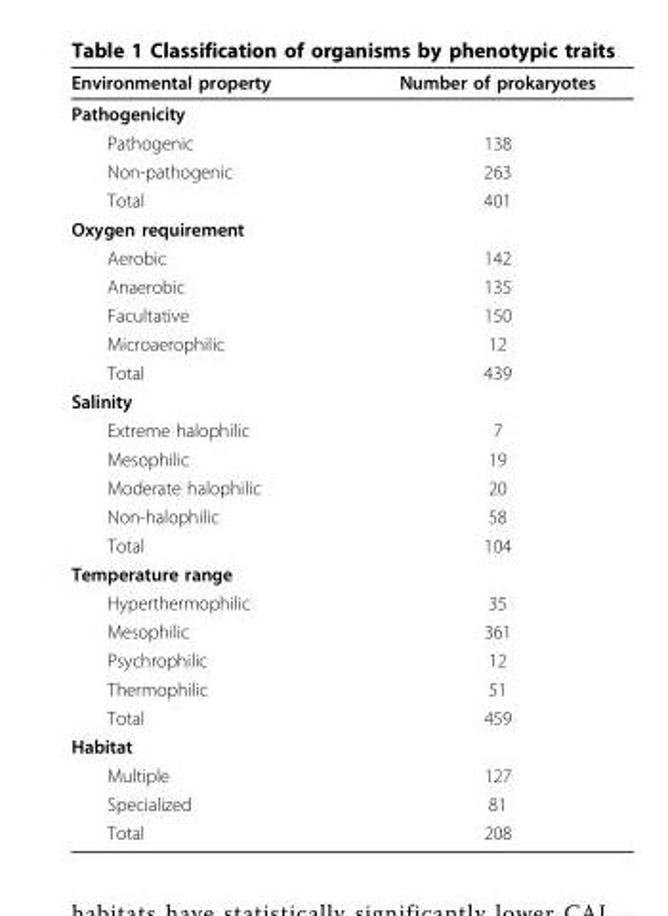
<table><thead><tr><td>Environmental property</td><td>Number of prokaryotes</td></tr></thead><tbody><tr><td colspan="2">Pathogenicity</td></tr><tr><td>Pathogenic</td><td>138</td></tr><tr><td>Non-pathogenic</td><td>263</td></tr><tr><td>Total</td><td>401</td></tr><tr><td colspan="2">Oxygen requirement</td></tr><tr><td>Aerobic</td><td>142</td></tr><tr><td>Anaerobic</td><td>135</td></tr><tr><td>Facultative</td><td>150</td></tr><tr><td>Microaerophilic</td><td>12</td></tr><tr><td>Total</td><td>439</td></tr><tr><td colspan="2">Salinity</td></tr><tr><td>Extreme halophilic</td><td>7</td></tr><tr><td>Mesophilic</td><td>19</td></tr><tr><td>Moderate halophilic</td><td>20</td></tr><tr><td>Non-halophilic</td><td>58</td></tr><tr><td>Total</td><td>104</td></tr><tr><td colspan="2">Temperature range</td></tr><tr><td>Hyperthermophilic</td><td>35</td></tr><tr><td>Mesophilic</td><td>361</td></tr><tr><td>Psychrophilic</td><td>12</td></tr><tr><td>Thermophilic</td><td>51</td></tr><tr><td>Total</td><td>459</td></tr><tr><td colspan="2">Habitat</td></tr><tr><td>Multiple</td><td>127</td></tr><tr><td>Specialized</td><td>81</td></tr><tr><td>Total</td><td>208</td></tr></tbody></table>